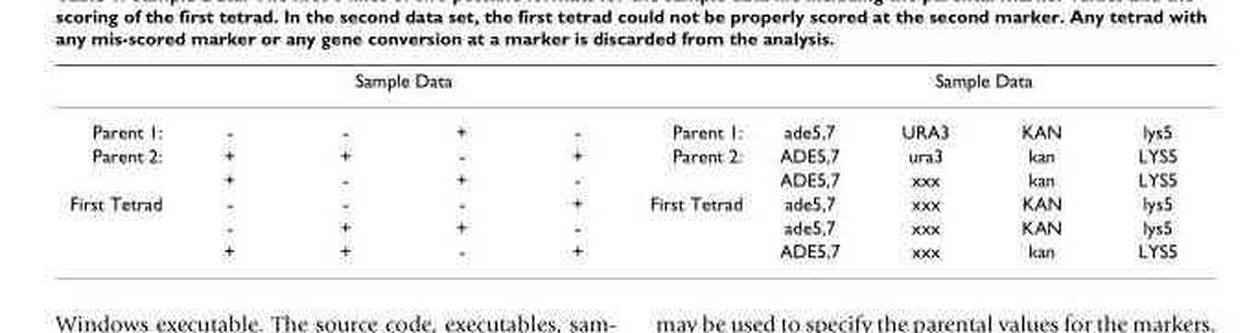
<table><thead><tr><td rowspan="2">Parent 1:</td><td colspan="4">Sample Data</td><td rowspan="2">Parent 1:</td><td colspan="4">Sample Data</td></tr><tr><td>-</td><td>-</td><td>+</td><td>-</td><td>ade5,7</td><td>URA3</td><td>KAN</td><td>lys5</td></tr></thead><tbody><tr><td rowspan="2">Parent 2:</td><td>+</td><td>+</td><td>-</td><td>+</td><td>Parent 2:</td><td>ADE5,7</td><td>ura3</td><td>kan</td><td>LYS5</td></tr><tr><td>+</td><td>-</td><td>+</td><td>-</td><td></td><td>ADE5,7</td><td>xxx</td><td>kan</td><td>LYS5</td></tr><tr><td rowspan="3">First Tetrad</td><td>-</td><td>-</td><td>-</td><td>+</td><td>First Tetrad</td><td>ade5,7</td><td>xxx</td><td>KAN</td><td>lys5</td></tr><tr><td>-</td><td>+</td><td>+</td><td>-</td><td></td><td>ade5,7</td><td>xxx</td><td>KAN</td><td>lys5</td></tr><tr><td>+</td><td>+</td><td>-</td><td>+</td><td></td><td>ADE5,7</td><td>xxx</td><td>kan</td><td>LYS5</td></tr></tbody></table>